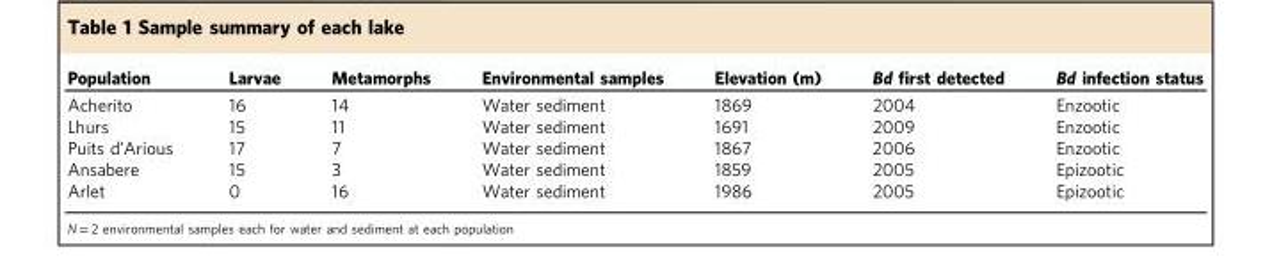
<table><thead><tr><td>Population</td><td>Larvae</td><td>Metamorphs</td><td>Environmental samples</td><td>Elevation (m)</td><td>Bd first detected</td><td>Bd infection status</td></tr></thead><tbody><tr><td>Acherito</td><td>16</td><td>14</td><td>Water sediment</td><td>1869</td><td>2004</td><td>Enzootic</td></tr><tr><td>Lhurs</td><td>15</td><td>11</td><td>Water sediment</td><td>1691</td><td>2009</td><td>Enzootic</td></tr><tr><td>Puits d’Arious</td><td>17</td><td>7</td><td>Water sediment</td><td>1867</td><td>2006</td><td>Enzootic</td></tr><tr><td>Ansabere</td><td>15</td><td>3</td><td>Water sediment</td><td>1859</td><td>2005</td><td>Epizootic</td></tr><tr><td>Arlet</td><td>0</td><td>16</td><td>Water sediment</td><td>1986</td><td>2005</td><td>Epizootic</td></tr></tbody></table>